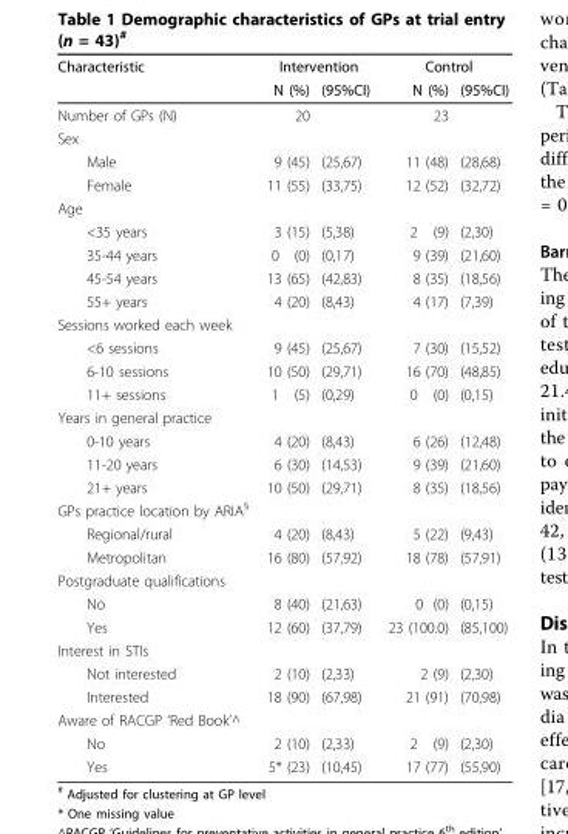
<table><thead><tr><td rowspan="2">Characteristic</td><td colspan="2">Intervention</td><td colspan="2">Control</td></tr><tr><td>N (%)</td><td>(95%CI)</td><td>N (%)</td><td>(95%CI)</td></tr></thead><tbody><tr><td>Number of GPs (N)</td><td>20</td><td></td><td>23</td><td></td></tr><tr><td colspan="5">Sex</td></tr><tr><td>Male</td><td>9 (45)</td><td>(25,67)</td><td>11 (48)</td><td>(28,68)</td></tr><tr><td>Female</td><td>11 (55)</td><td>(33,75)</td><td>12 (52)</td><td>(32,72)</td></tr><tr><td colspan="5">Age</td></tr><tr><td>&lt;35 years</td><td>3 (15)</td><td>(5,38)</td><td>2 (9)</td><td>(2,30)</td></tr><tr><td>35-44 years</td><td>0 (0)</td><td>(0,17)</td><td>9 (39)</td><td>(21,60)</td></tr><tr><td>45-54 years</td><td>13 (65)</td><td>(42,83)</td><td>8 (35)</td><td>(18,56)</td></tr><tr><td>55+ years</td><td>4 (20)</td><td>(8,43)</td><td>4 (17)</td><td>(7,39)</td></tr><tr><td colspan="5">Sessions worked each week</td></tr><tr><td>&lt;6 sessions</td><td>9 (45)</td><td>(25,67)</td><td>7 (30)</td><td>(15,52)</td></tr><tr><td>6-10 sessions</td><td>10 (50)</td><td>(29,71)</td><td>16 (70)</td><td>(48,85)</td></tr><tr><td>11+ sessions</td><td>1 (5)</td><td>(0,29)</td><td>0 (0)</td><td>(0,15)</td></tr><tr><td colspan="5">Years in general practice</td></tr><tr><td>0-10 years</td><td>4 (20)</td><td>(8,43)</td><td>6 (26)</td><td>(12,48)</td></tr><tr><td>11-20 years</td><td>6 (30)</td><td>(14,53)</td><td>9 (39)</td><td>(21,60)</td></tr><tr><td>21+ years</td><td>10 (50)</td><td>(29,71)</td><td>8 (35)</td><td>(18,56)</td></tr><tr><td colspan="5">GPs practice location by ARIA<sup>§</sup></td></tr><tr><td>Regional/rural</td><td>4 (20)</td><td>(8,43)</td><td>5 (22)</td><td>(9,43)</td></tr><tr><td>Metropolitan</td><td>16 (80)</td><td>(57,92)</td><td>18 (78)</td><td>(57,91)</td></tr><tr><td colspan="5">Postgraduate qualifications</td></tr><tr><td>No</td><td>8 (40)</td><td>(21,63)</td><td>0 (0)</td><td>(0,15)</td></tr><tr><td>Yes</td><td>12 (60)</td><td>(37,79)</td><td>23 (100.0)</td><td>(85,100)</td></tr><tr><td colspan="5">Interest in STIs</td></tr><tr><td>Not interested</td><td>2 (10)</td><td>(2,33)</td><td>2 (9)</td><td>(2,30)</td></tr><tr><td>Interested</td><td>18 (90)</td><td>(67,98)</td><td>21 (91)</td><td>(70,98)</td></tr><tr><td colspan="5">Aware of RACGP ‘Red Book’^</td></tr><tr><td>No</td><td>2 (10)</td><td>(2,33)</td><td>2 (9)</td><td>(2,30)</td></tr><tr><td>Yes</td><td>5* (23)</td><td>(10,45)</td><td>17 (77)</td><td>(55,90)</td></tr></tbody></table>